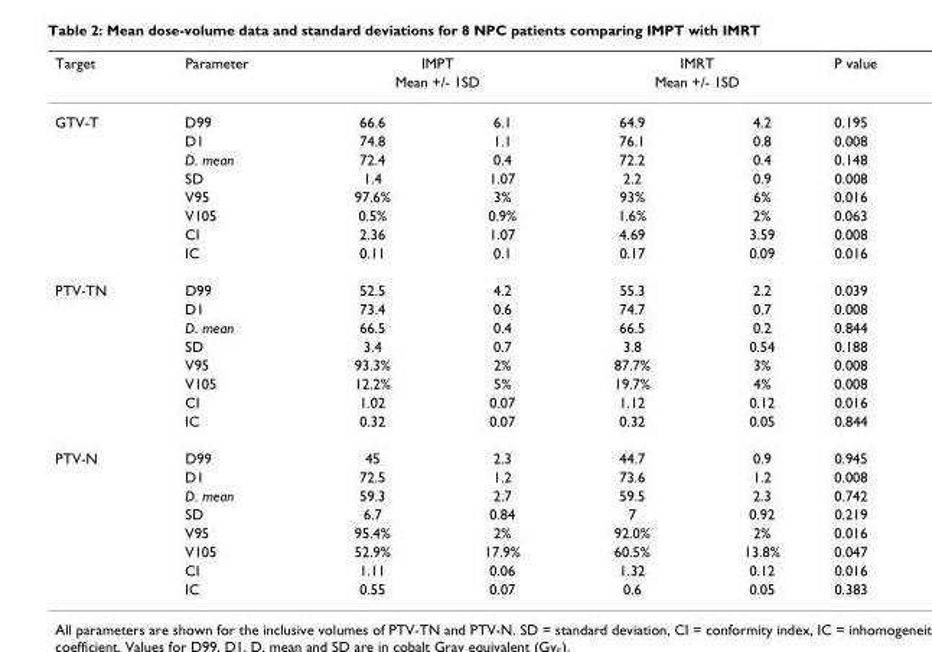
<table><thead><tr><td rowspan="3">Target GTV-T</td><td rowspan="3">Parameter D99</td><td rowspan="2" colspan="2">IMPT Mean +/- 1SD</td><td rowspan="2" colspan="2">IMRT Mean +/- 1SD</td><td rowspan="3">P value 0.195</td></tr><tr></tr><tr><td>66.6</td><td>6.1</td><td>64.9</td><td>4.2</td></tr></thead><tbody><tr><td></td><td>D1</td><td>74.8</td><td>1.1</td><td>76.1</td><td>0.8</td><td>0.008</td></tr><tr><td></td><td>D. mean</td><td>72.4</td><td>0.4</td><td>72.2</td><td>0.4</td><td>0.148</td></tr><tr><td></td><td>SD</td><td>1.4</td><td>1.07</td><td>2.2</td><td>0.9</td><td>0.008</td></tr><tr><td></td><td>V95</td><td>97.6%</td><td>3%</td><td>93%</td><td>6%</td><td>0.016</td></tr><tr><td></td><td>V105</td><td>0.5%</td><td>0.9%</td><td>1.6%</td><td>2%</td><td>0.063</td></tr><tr><td></td><td>CI</td><td>2.36</td><td>1.07</td><td>4.69</td><td>3.59</td><td>0.008</td></tr><tr><td></td><td>IC</td><td>0.11</td><td>0.1</td><td>0.17</td><td>0.09</td><td>0.016</td></tr><tr><td rowspan="8">PTV-TN</td><td>D99</td><td>52.5</td><td>4.2</td><td>55.3</td><td>2.2</td><td>0.039</td></tr><tr><td>D1</td><td>73.4</td><td>0.6</td><td>74.7</td><td>0.7</td><td>0.008</td></tr><tr><td>D. mean</td><td>66.5</td><td>0.4</td><td>66.5</td><td>0.2</td><td>0.844</td></tr><tr><td>SD</td><td>3.4</td><td>0.7</td><td>3.8</td><td>0.54</td><td>0.188</td></tr><tr><td>V95</td><td>93.3%</td><td>2%</td><td>87.7%</td><td>3%</td><td>0.008</td></tr><tr><td>V105</td><td>12.2%</td><td>5%</td><td>19.7%</td><td>4%</td><td>0.008</td></tr><tr><td>CI</td><td>1.02</td><td>0.07</td><td>1.12</td><td>0.12</td><td>0.016</td></tr><tr><td>IC</td><td>0.32</td><td>0.07</td><td>0.32</td><td>0.05</td><td>0.844</td></tr><tr><td rowspan="8">PTV-N</td><td>D99</td><td>45</td><td>2.3</td><td>44.7</td><td>0.9</td><td>0.945</td></tr><tr><td>D1</td><td>72.5</td><td>1.2</td><td>73.6</td><td>1.2</td><td>0.008</td></tr><tr><td>D. mean</td><td>59.3</td><td>2.7</td><td>59.5</td><td>2.3</td><td>0.742</td></tr><tr><td>SD</td><td>6.7</td><td>0.84</td><td>7</td><td>0.92</td><td>0.219</td></tr><tr><td>V95</td><td>95.4%</td><td>2%</td><td>92.0%</td><td>2%</td><td>0.016</td></tr><tr><td>V105</td><td>52.9%</td><td>17.9%</td><td>60.5%</td><td>13.8%</td><td>0.047</td></tr><tr><td>CI</td><td>1.11</td><td>0.06</td><td>1.32</td><td>0.12</td><td>0.016</td></tr><tr><td>IC</td><td>0.55</td><td>0.07</td><td>0.6</td><td>0.05</td><td>0.383</td></tr></tbody></table>